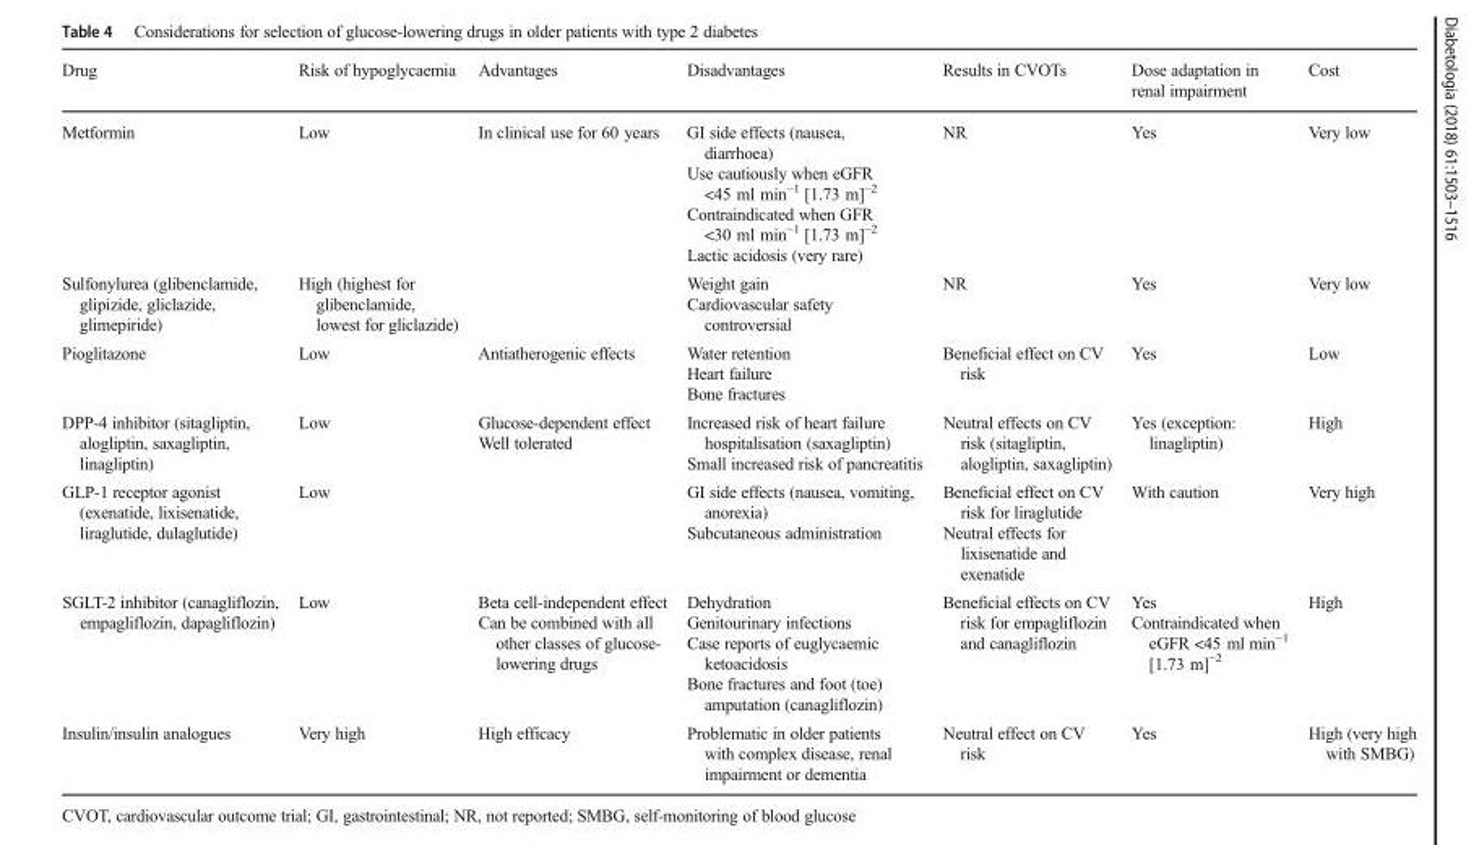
<table><thead><tr><td>Drug</td><td>Risk of hypoglycaemia</td><td>Advantages</td><td>Disadvantages</td><td>Results in CVOTs</td><td>Dose adaptation in renal impairment</td><td>Cost</td></tr></thead><tbody><tr><td>Metformin</td><td>Low</td><td>In clinical use for 60 years</td><td>GI side effects (nausea, diarrhoea) Use cautiously when eGFR &lt;45 ml min<sup>−1</sup> [1.73 m]<sup>−2</sup> Contraindicated when GFR &lt;30 ml min<sup>−1</sup> [1.73 m]<sup>−2</sup> Lactic acidosis (very rare)</td><td>NR</td><td>Yes</td><td>Very low</td></tr><tr><td>Sulfonylurea (glibenclamide, glipizide, gliclazide, glimepiride)</td><td>High (highest for glibenclamide, lowest for gliclazide)</td><td></td><td>Weight gain Cardiovascular safety controversial</td><td>NR</td><td>Yes</td><td>Very low</td></tr><tr><td>Pioglitazone</td><td>Low</td><td>Antiatherogenic effects</td><td>Water retention Heart failure Bone fractures</td><td>Beneficial effect on CV risk</td><td>Yes</td><td>Low</td></tr><tr><td>DPP-4 inhibitor (sitagliptin, alogliptin, saxagliptin, linagliptin)</td><td>Low</td><td>Glucose-dependent effect Well tolerated</td><td>Increased risk of heart failure hospitalisation (saxagliptin) Small increased risk of pancreatitis</td><td>Neutral effects on CV risk (sitagliptin, alogliptin, saxagliptin)</td><td>Yes (exception: linagliptin)</td><td>High</td></tr><tr><td>GLP-1 receptor agonist (exenatide, lixisenatide, liraglutide, dulaglutide)</td><td>Low</td><td></td><td>GI side effects (nausea, vomiting, anorexia) Subcutaneous administration</td><td>Beneficial effect on CV risk for liraglutide Neutral effects for lixisenatide and exenatide</td><td>With caution</td><td>Very high</td></tr><tr><td>SGLT-2 inhibitor (canagliflozin, empagliflozin, dapagliflozin)</td><td>Low</td><td>Beta cell-independent effect Can be combined with all other classes of glucose- lowering drugs</td><td>Dehydration Genitourinary infections Case reports of euglycaemic ketoacidosis Bone fractures and foot (toe) amputation (canagliflozin)</td><td>Beneficial effects on CV risk for empagliflozin and canagliflozin</td><td>Yes Contraindicated when eGFR &lt;45 ml min<sup>−1</sup> [1.73 m]<sup>−2</sup></td><td>High</td></tr><tr><td>Insulin/insulin analogues</td><td>Very high</td><td>High efficacy</td><td>Problematic in older patients with complex disease, renal impairment or dementia</td><td>Neutral effect on CV risk</td><td>Yes</td><td>High (very high with SMBG)</td></tr></tbody></table>